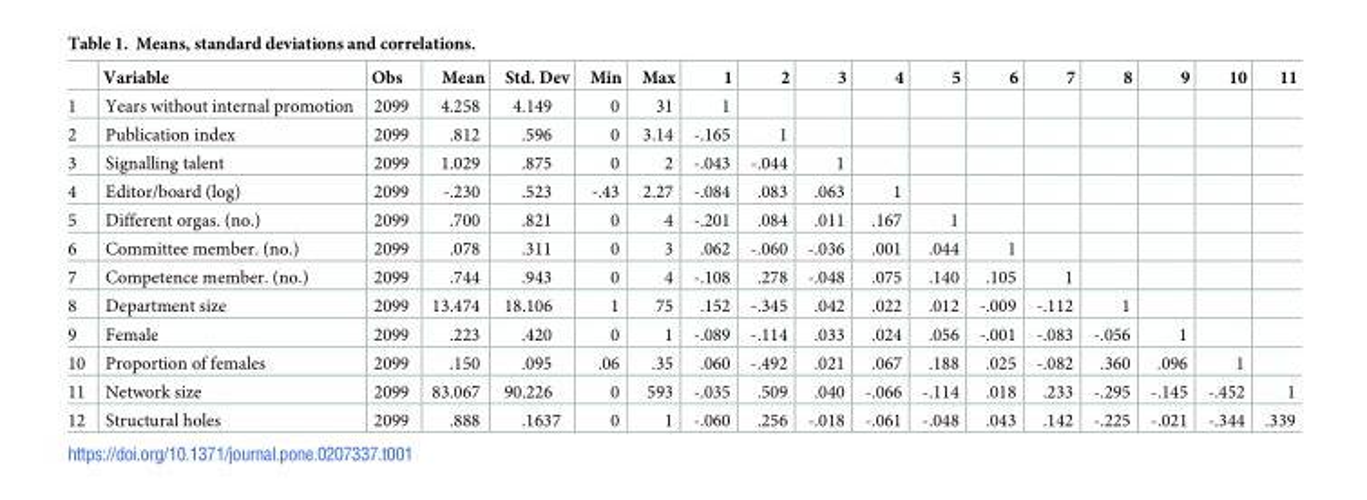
<table><thead><tr><td></td><td>Variable</td><td>Obs</td><td>Mean</td><td>Std. Dev</td><td>Min</td><td>Max</td><td>1</td><td>2</td><td>3</td><td>4</td><td>5</td><td>6</td><td>7</td><td>8</td><td>9</td><td>10</td><td>11</td></tr></thead><tbody><tr><td>1</td><td>Years without internal promotion</td><td>2099</td><td>4.258</td><td>4.149</td><td>0</td><td>31</td><td>1</td><td></td><td></td><td></td><td></td><td></td><td></td><td></td><td></td><td></td><td></td></tr><tr><td>2</td><td>Publication index</td><td>2099</td><td>.812</td><td>.596</td><td>0</td><td>3.14</td><td>-.165</td><td>1</td><td></td><td></td><td></td><td></td><td></td><td></td><td></td><td></td><td></td></tr><tr><td>3</td><td>Signalling talent</td><td>2099</td><td>1.029</td><td>.875</td><td>0</td><td>2</td><td>-.043</td><td>-.044</td><td>1</td><td></td><td></td><td></td><td></td><td></td><td></td><td></td><td></td></tr><tr><td>4</td><td>Editor/board (log)</td><td>2099</td><td>-.230</td><td>.523</td><td>-.43</td><td>2.27</td><td>-.084</td><td>.083</td><td>.063</td><td>1</td><td></td><td></td><td></td><td></td><td></td><td></td><td></td></tr><tr><td>5</td><td>Different orgas. (no.)</td><td>2099</td><td>.700</td><td>.821</td><td>0</td><td>4</td><td>-.201</td><td>.084</td><td>.011</td><td>.167</td><td>1</td><td></td><td></td><td></td><td></td><td></td><td></td></tr><tr><td>6</td><td>Committee member. (no.)</td><td>2099</td><td>.078</td><td>.311</td><td>0</td><td>3</td><td>.062</td><td>-.060</td><td>-.036</td><td>.001</td><td>.044</td><td>1</td><td></td><td></td><td></td><td></td><td></td></tr><tr><td>7</td><td>Competence member. (no.)</td><td>2099</td><td>.744</td><td>.943</td><td>0</td><td>4</td><td>-.108</td><td>.278</td><td>-.048</td><td>.075</td><td>.140</td><td>.105</td><td>1</td><td></td><td></td><td></td><td></td></tr><tr><td>8</td><td>Department size</td><td>2099</td><td>13.474</td><td>18.106</td><td>1</td><td>75</td><td>.152</td><td>-.345</td><td>.042</td><td>.022</td><td>.012</td><td>-.009</td><td>-.112</td><td>1</td><td></td><td></td><td></td></tr><tr><td>9</td><td>Female</td><td>2099</td><td>.223</td><td>.420</td><td>0</td><td>1</td><td>-.089</td><td>-.114</td><td>.033</td><td>.024</td><td>.056</td><td>-.001</td><td>-.083</td><td>-.056</td><td>1</td><td></td><td></td></tr><tr><td>10</td><td>Proportion of females</td><td>2099</td><td>.150</td><td>.095</td><td>.06</td><td>.35</td><td>.060</td><td>-.492</td><td>.021</td><td>.067</td><td>.188</td><td>.025</td><td>-.082</td><td>.360</td><td>.096</td><td>1</td><td></td></tr><tr><td>11</td><td>Network size</td><td>2099</td><td>83.067</td><td>90.226</td><td>0</td><td>593</td><td>-.035</td><td>.509</td><td>.040</td><td>-.066</td><td>-.114</td><td>.018</td><td>.233</td><td>-.295</td><td>-.145</td><td>-.452</td><td>1</td></tr><tr><td>12</td><td>Structural holes</td><td>2099</td><td>.888</td><td>.1637</td><td>0</td><td>1</td><td>-.060</td><td>.256</td><td>-.018</td><td>-.061</td><td>-.048</td><td>.043</td><td>.142</td><td>-.225</td><td>-.021</td><td>-.344</td><td>.339</td></tr></tbody></table>